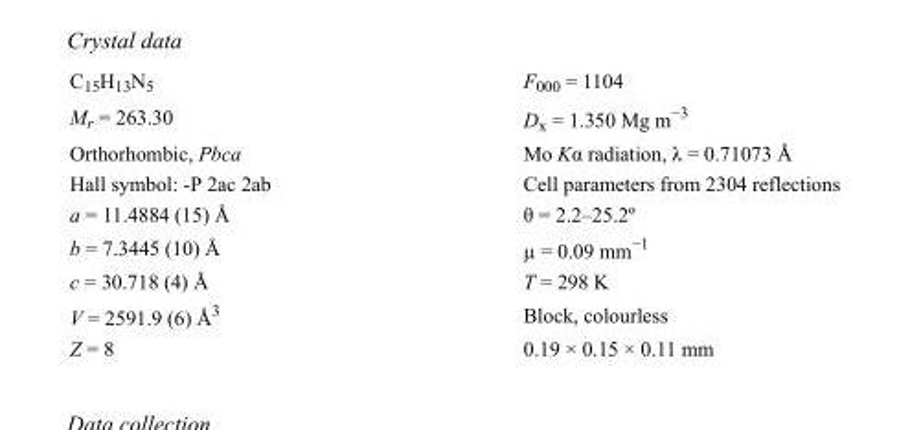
<table><tbody><tr><td>C<sub>15</sub>H<sub>13</sub>N<sub>5</sub></td><td>F000 = 1104</td></tr><tr><td>M<sub>r</sub> = 263.30</td><td>D<sub>x</sub> = 1.350 Mg m<sup>−3</sup></td></tr><tr><td>Orthorhombic, Pbca</td><td>Mo Kα radiation, λ = 0.71073 Å</td></tr><tr><td>Hall symbol: -P 2ac 2ab</td><td>Cell parameters from 2304 reflections</td></tr><tr><td>a = 11.4884 (15) Å</td><td>θ = 2.2–25.2º</td></tr><tr><td>b = 7.3445 (10) Å</td><td>µ = 0.09 mm<sup>−1</sup></td></tr><tr><td>c = 30.718 (4) Å</td><td>T = 298 K</td></tr><tr><td>V = 2591.9 (6) Å<sup>3</sup></td><td>Block, colourless</td></tr><tr><td>Z = 8</td><td>0.19 × 0.15 × 0.11 mm</td></tr></tbody></table>